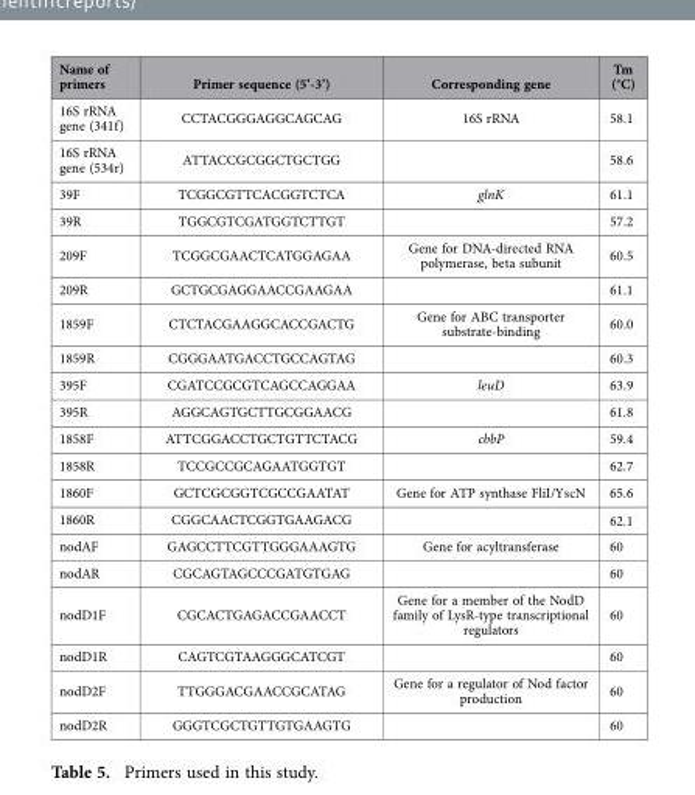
<table><thead><tr><td>Name of primers</td><td>Primer sequence (5’-3’)</td><td>Corresponding gene</td><td>Tm (°C)</td></tr></thead><tbody><tr><td>16S rRNA gene (341f)</td><td>CCTACGGGAGGCAGCAG</td><td>16S rRNA</td><td>58.1</td></tr><tr><td>16S rRNA gene (534r)</td><td>ATTACCGCGGCTGCTGG</td><td></td><td>58.6</td></tr><tr><td>39F</td><td>TCGGCGTTCACGGTCTCA</td><td>glnK</td><td>61.1</td></tr><tr><td>39R</td><td>TGGCGTCGATGGTCTTGT</td><td></td><td>57.2</td></tr><tr><td>209F</td><td>TCGGCGAACTCATGGAGAA</td><td>Gene for DNA-directed RNA polymerase, beta subunit</td><td>60.5</td></tr><tr><td>209R</td><td>GCTGCGAGGAACCGAAGAA</td><td></td><td>61.1</td></tr><tr><td>1859F</td><td>CTCTACGAAGGCACCGACTG</td><td>Gene for ABC transporter substrate-binding</td><td>60.0</td></tr><tr><td>1859R</td><td>CGGGAATGACCTGCCAGTAG</td><td></td><td>60.3</td></tr><tr><td>395F</td><td>CGATCCGCGTCAGCCAGGAA</td><td>leuD</td><td>63.9</td></tr><tr><td>395R</td><td>AGGCAGTGCTTGCGGAACG</td><td></td><td>61.8</td></tr><tr><td>1858F</td><td>ATTCGGACCTGCTGTTCTACG</td><td>cbbP</td><td>59.4</td></tr><tr><td>1858R</td><td>TCCGCCGCAGAATGGTGT</td><td></td><td>62.7</td></tr><tr><td>1860F</td><td>GCTCGCGGTCGCCGAATAT</td><td>Gene for ATP synthase FliI/YscN</td><td>65.6</td></tr><tr><td>1860R</td><td>CGGCAACTCGGTGAAGACG</td><td></td><td>62.1</td></tr><tr><td>nodAF</td><td>GAGCCTTCGTTGGGAAAGTG</td><td>Gene for acyltransferase</td><td>60</td></tr><tr><td>nodAR</td><td>CGCAGTAGCCCGATGTGAG</td><td></td><td>60</td></tr><tr><td>nodD1F</td><td>CGCACTGAGACCGAACCT</td><td>Gene for a member of the NodD family of LysR-type transcriptional regulators</td><td>60</td></tr><tr><td>nodD1R</td><td>CAGTCGTAAGGGCATCGT</td><td></td><td>60</td></tr><tr><td>nodD2F</td><td>TTGGGACGAACCGCATAG</td><td>Gene for a regulator of Nod factor production</td><td>60</td></tr><tr><td>nodD2R</td><td>GGGTCGCTGTTGTGAAGTG</td><td></td><td>60</td></tr></tbody></table>